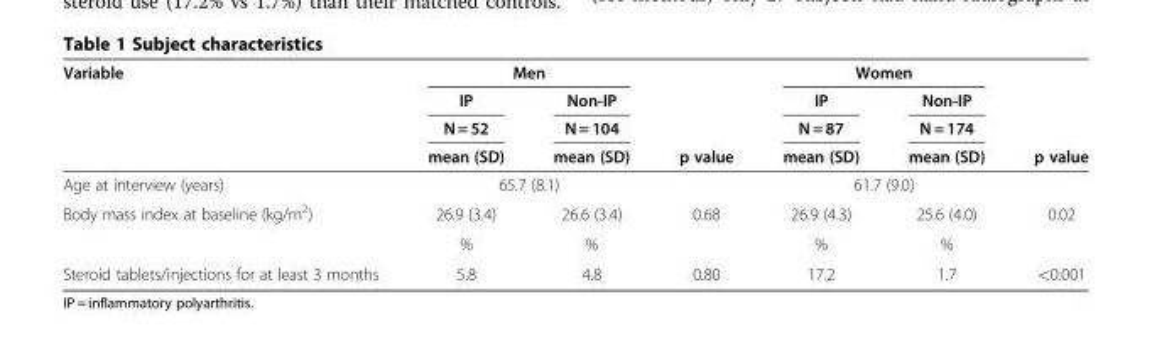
<table><thead><tr><td rowspan="4">Variable</td><td colspan="2">Men</td><td rowspan="4">p value</td><td colspan="2">Women</td><td rowspan="4">p value</td></tr><tr><td rowspan="3">IP N = 52 mean (SD)</td><td rowspan="3">Non-IP N = 104 mean (SD)</td><td rowspan="3">IP N = 87 mean (SD)</td><td rowspan="3">Non-IP N = 174 mean (SD)</td></tr><tr></tr><tr></tr></thead><tbody><tr><td>Age at interview (years)</td><td colspan="2">65.7 (8.1)</td><td></td><td colspan="2">61.7 (9.0)</td><td></td></tr><tr><td rowspan="2">Body mass index at baseline (kg/m<sup>2</sup>)</td><td>26.9 (3.4)</td><td>26.6 (3.4)</td><td>0.68</td><td>26.9 (4.3)</td><td>25.6 (4.0)</td><td>0.02</td></tr><tr><td>%</td><td>%</td><td></td><td>%</td><td>%</td><td></td></tr><tr><td>Steroid tablets/injections for at least 3 months</td><td>5.8</td><td>4.8</td><td>0.80</td><td>17.2</td><td>1.7</td><td>&lt;0.001</td></tr></tbody></table>